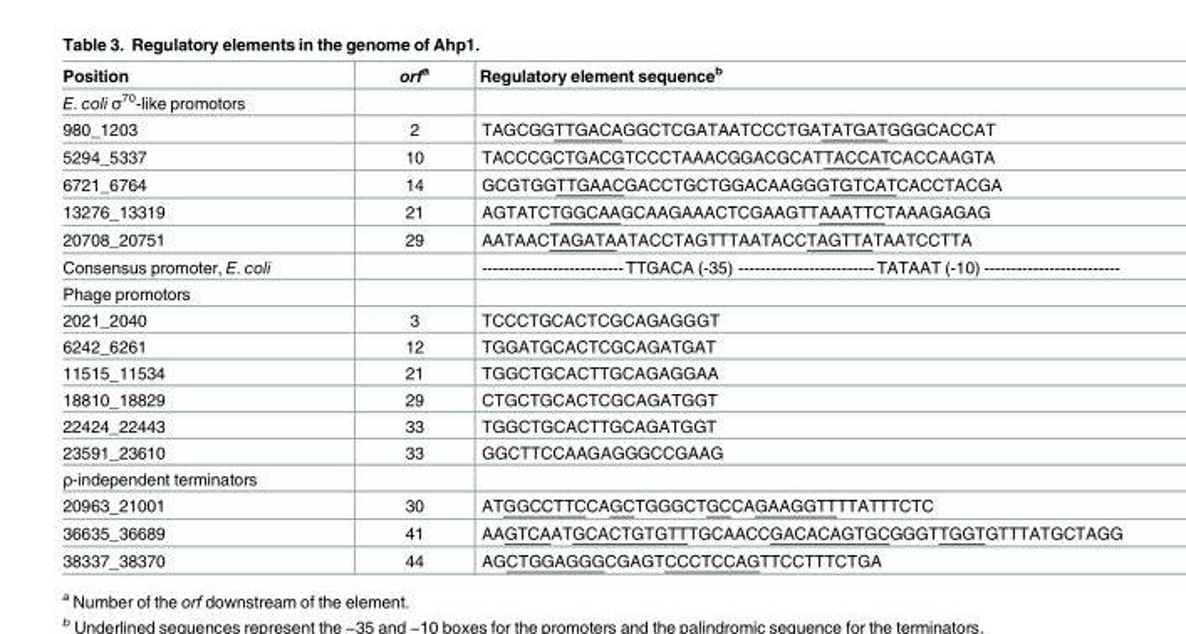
<table><thead><tr><td>Position</td><td>orf<sup>a</sup></td><td>Regulatory element sequence<sup>b</sup></td></tr></thead><tbody><tr><td colspan="3">E. coli σ<sup>70</sup>-like promotors</td></tr><tr><td>980_1203</td><td>2</td><td>TAGCGGTTGACAGGCTCGATAATCCCTGATATGATGGGCACCAT</td></tr><tr><td>5294_5337</td><td>10</td><td>TACCCGCTGACGTCCCTAAACGGACGCATTACCATCACCAAGTA</td></tr><tr><td>6721_6764</td><td>14</td><td>GCGTGGTTGAACGACCTGCTGGACAAGGGTGTCATCACCTACGA</td></tr><tr><td>13276_13319</td><td>21</td><td>AGTATCTGGCAAGCAAGAAACTCGAAGTTAAATTCTAAAGAGAG</td></tr><tr><td>20708_20751</td><td>29</td><td>AATAACTAGATAATACCTAGTTTAATACCTAGTTATAATCCTTA</td></tr><tr><td>Consensus promoter, E. coli</td><td></td><td>--------------------------TTGACA (-35) -------------------------TATAAT (-10) -------------------------</td></tr><tr><td colspan="3">Phage promotors</td></tr><tr><td>2021_2040</td><td>3</td><td>TCCCTGCACTCGCAGAGGGT</td></tr><tr><td>6242_6261</td><td>12</td><td>TGGATGCACTCGCAGATGAT</td></tr><tr><td>11515_11534</td><td>21</td><td>TGGCTGCACTTGCAGAGGAA</td></tr><tr><td>18810_18829</td><td>29</td><td>CTGCTGCACTCGCAGATGGT</td></tr><tr><td>22424_22443</td><td>33</td><td>TGGCTGCACTTGCAGATGGT</td></tr><tr><td>23591_23610</td><td>33</td><td>GGCTTCCAAGAGGGCCGAAG</td></tr><tr><td colspan="3">ρ-independent terminators</td></tr><tr><td>20963_21001</td><td>30</td><td>ATGGCCTTCCAGCTGGGCTGCCAGAAGGTTTTATTTCTC</td></tr><tr><td>36635_36689</td><td>41</td><td>AAGTCAATGCACTGTGTTTGCAACCGACACAGTGCGGGTTGGTGTTTATGCTAGG</td></tr><tr><td>38337_38370</td><td>44</td><td>AGCTGGAGGGCGAGTCCCTCCAGTTCCTTTCTGA</td></tr></tbody></table>